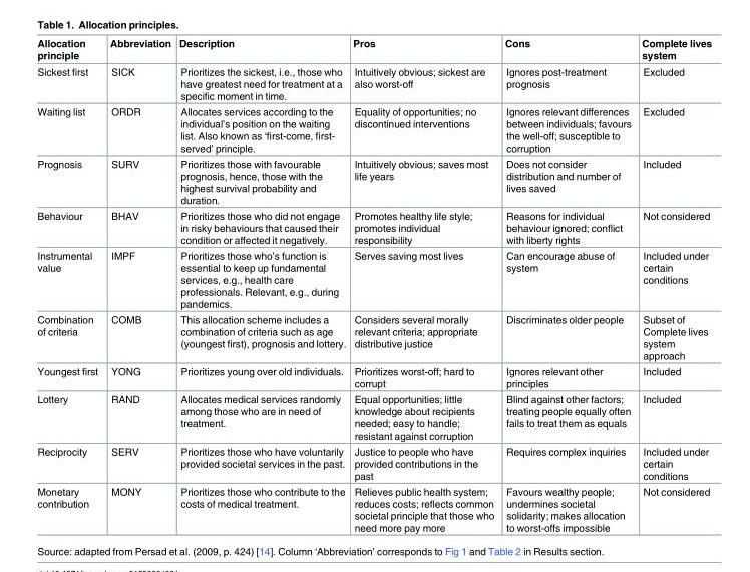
<table><thead><tr><td>Allocation principle</td><td>Abbreviation</td><td>Description</td><td>Pros</td><td>Cons</td><td>Complete lives system</td></tr></thead><tbody><tr><td>Sickest first</td><td>SICK</td><td>Prioritizes the sickest, i.e., those who have greatest need for treatment at a specific moment in time.</td><td>Intuitively obvious; sickest are also worst-off</td><td>Ignores post-treatment prognosis</td><td>Excluded</td></tr><tr><td>Waiting list</td><td>ORDR</td><td>Allocates services according to the individual’s position on the waiting list. Also known as ‘first-come, first- served’ principle.</td><td>Equality of opportunities; no discontinued interventions</td><td>Ignores relevant differences between individuals; favours the well-off; susceptible to corruption</td><td>Excluded</td></tr><tr><td>Prognosis</td><td>SURV</td><td>Prioritizes those with favourable prognosis, hence, those with the highest survival probability and duration.</td><td>Intuitively obvious; saves most life years</td><td>Does not consider distribution and number of lives saved</td><td>Included</td></tr><tr><td>Behaviour</td><td>BHAV</td><td>Prioritizes those who did not engage in risky behaviours that caused their condition or affected it negatively.</td><td>Promotes healthy life style; promotes individual responsibility</td><td>Reasons for individual behaviour ignored; conflict with liberty rights</td><td>Not considered</td></tr><tr><td>Instrumental value</td><td>IMPF</td><td>Prioritizes those who’s function is essential to keep up fundamental services, e.g., health care professionals. Relevant, e.g., during pandemics.</td><td>Serves saving most lives</td><td>Can encourage abuse of system</td><td>Included under certain conditions</td></tr><tr><td>Combination of criteria</td><td>COMB</td><td>This allocation scheme includes a combination of criteria such as age (youngest first), prognosis and lottery.</td><td>Considers several morally relevant criteria; appropriate distributive justice</td><td>Discriminates older people</td><td>Subset of Complete lives system approach</td></tr><tr><td>Youngest first</td><td>YONG</td><td>Prioritizes young over old individuals.</td><td>Prioritizes worst-off; hard to corrupt</td><td>Ignores relevant other principles</td><td>Included</td></tr><tr><td>Lottery</td><td>RAND</td><td>Allocates medical services randomly among those who are in need of treatment.</td><td>Equal opportunities; little knowledge about recipients needed; easy to handle; resistant against corruption</td><td>Blind against other factors; treating people equally often fails to treat them as equals</td><td>Included</td></tr><tr><td>Reciprocity</td><td>SERV</td><td>Prioritizes those who have voluntarily provided societal services in the past.</td><td>Justice to people who have provided contributions in the past</td><td>Requires complex inquiries</td><td>Included under certain conditions</td></tr><tr><td>Monetary contribution</td><td>MONY</td><td>Prioritizes those who contribute to the costs of medical treatment.</td><td>Relieves public health system; reduces costs; reflects common societal principle that those who need more pay more</td><td>Favours wealthy people; undermines societal solidarity; makes allocation to worst-offs impossible</td><td>Not considered</td></tr></tbody></table>